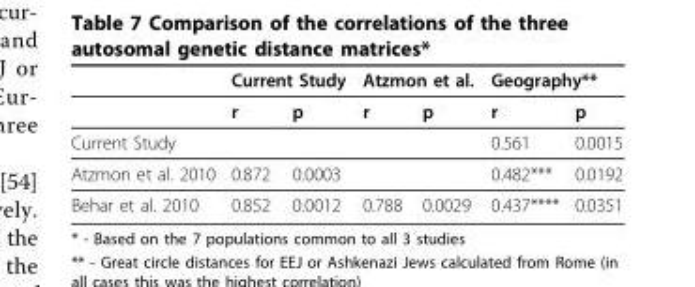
<table><thead><tr><td rowspan="2"></td><td colspan="2">Current Study</td><td colspan="2">Atzmon et al.</td><td colspan="2">Geography**</td></tr><tr><td>r</td><td>p</td><td>r</td><td>p</td><td>r</td><td>p</td></tr></thead><tbody><tr><td>Current Study</td><td></td><td></td><td></td><td></td><td>0.561</td><td>0.0015</td></tr><tr><td>Atzmon et al. 2010</td><td>0.872</td><td>0.0003</td><td></td><td></td><td>0.482***</td><td>0.0192</td></tr><tr><td>Behar et al. 2010</td><td>0.852</td><td>0.0012</td><td>0.788</td><td>0.0029</td><td>0.437****</td><td>0.0351</td></tr></tbody></table>